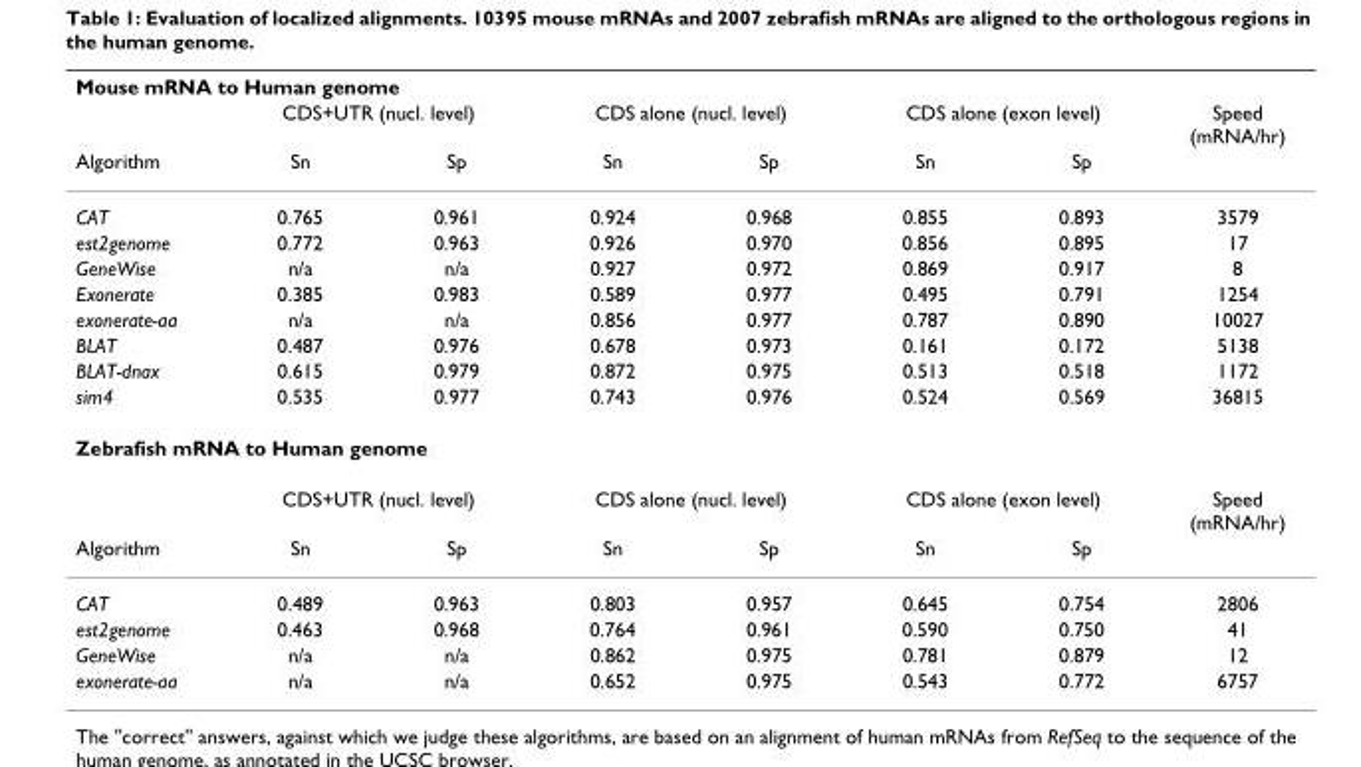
<table><thead><tr><td colspan="8">Mouse mRNA to Human genome</td></tr><tr><td rowspan="2">Algorithm</td><td colspan="2">CDS+UTR (nucl. level)</td><td colspan="2">CDS alone (nucl. level)</td><td colspan="2">CDS alone (exon level)</td><td rowspan="2">Speed (mRNA/hr)</td></tr><tr><td>Sn</td><td>Sp</td><td>Sn</td><td>Sp</td><td>Sn</td><td>Sp</td></tr></thead><tbody><tr><td>CAT</td><td>0.765</td><td>0.961</td><td>0.924</td><td>0.968</td><td>0.855</td><td>0.893</td><td>3579</td></tr><tr><td>est2genome</td><td>0.772</td><td>0.963</td><td>0.926</td><td>0.970</td><td>0.856</td><td>0.895</td><td>17</td></tr><tr><td>GeneWise</td><td>n/a</td><td>n/a</td><td>0.927</td><td>0.972</td><td>0.869</td><td>0.917</td><td>8</td></tr><tr><td>Exonerate</td><td>0.385</td><td>0.983</td><td>0.589</td><td>0.977</td><td>0.495</td><td>0.791</td><td>1254</td></tr><tr><td>exonerate-aa</td><td>n/a</td><td>n/a</td><td>0.856</td><td>0.977</td><td>0.787</td><td>0.890</td><td>10027</td></tr><tr><td>BLAT</td><td>0.487</td><td>0.976</td><td>0.678</td><td>0.973</td><td>0.161</td><td>0.172</td><td>5138</td></tr><tr><td>BLAT-dnax</td><td>0.615</td><td>0.979</td><td>0.872</td><td>0.975</td><td>0.513</td><td>0.518</td><td>1172</td></tr><tr><td>sim4</td><td>0.535</td><td>0.977</td><td>0.743</td><td>0.976</td><td>0.524</td><td>0.569</td><td>36815</td></tr><tr><td colspan="8">Zebrafish mRNA to Human genome</td></tr><tr><td></td><td colspan="2">CDS+UTR (nucl. level)</td><td colspan="2">CDS alone (nucl. level)</td><td colspan="2">CDS alone (exon level)</td><td>Speed (mRNA/hr)</td></tr><tr><td>Algorithm</td><td>Sn</td><td>Sp</td><td>Sn</td><td>Sp</td><td>Sn</td><td>Sp</td><td></td></tr><tr><td>CAT</td><td>0.489</td><td>0.963</td><td>0.803</td><td>0.957</td><td>0.645</td><td>0.754</td><td>2806</td></tr><tr><td>est2genome</td><td>0.463</td><td>0.968</td><td>0.764</td><td>0.961</td><td>0.590</td><td>0.750</td><td>41</td></tr><tr><td>GeneWise</td><td>n/a</td><td>n/a</td><td>0.862</td><td>0.975</td><td>0.781</td><td>0.879</td><td>12</td></tr><tr><td>exonerate-aa</td><td>n/a</td><td>n/a</td><td>0.652</td><td>0.975</td><td>0.543</td><td>0.772</td><td>6757</td></tr></tbody></table>